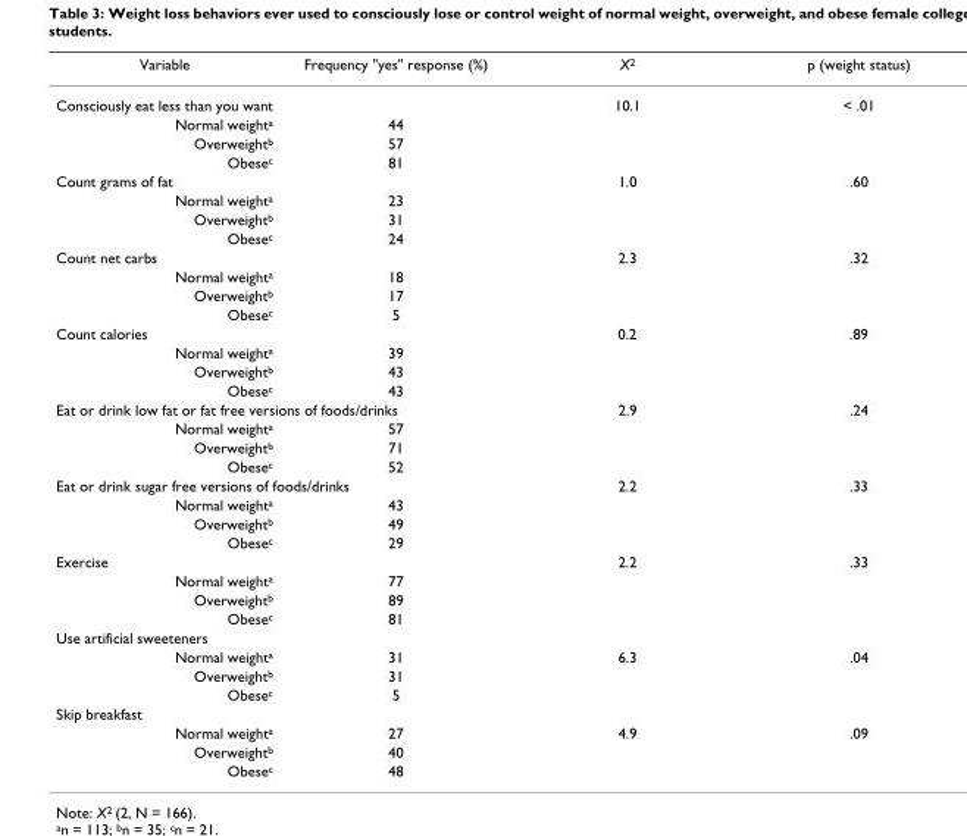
<table><thead><tr><td>Variable</td><td>Frequency &quot;yes&quot; response (%)</td><td>X<sup>2</sup></td><td>p (weight status)</td></tr></thead><tbody><tr><td>Consciously eat less than you want</td><td></td><td>10.1</td><td>&lt; .01</td></tr><tr><td>Normal weight<sup>a</sup></td><td>44</td><td></td><td></td></tr><tr><td>Overweight<sup>b</sup></td><td>57</td><td></td><td></td></tr><tr><td>Obese<sup>c</sup></td><td>81</td><td></td><td></td></tr><tr><td>Count grams of fat</td><td></td><td>1.0</td><td>.60</td></tr><tr><td>Normal weight<sup>a</sup></td><td>23</td><td></td><td></td></tr><tr><td>Overweight<sup>b</sup></td><td>31</td><td></td><td></td></tr><tr><td>Obese<sup>c</sup></td><td>24</td><td></td><td></td></tr><tr><td>Count net carbs</td><td></td><td>2.3</td><td>.32</td></tr><tr><td>Normal weight<sup>a</sup></td><td>18</td><td></td><td></td></tr><tr><td>Overweight<sup>b</sup></td><td>17</td><td></td><td></td></tr><tr><td>Obese<sup>c</sup></td><td>5</td><td></td><td></td></tr><tr><td>Count calories</td><td></td><td>0.2</td><td>.89</td></tr><tr><td>Normal weight<sup>a</sup></td><td>39</td><td></td><td></td></tr><tr><td>Overweight<sup>b</sup></td><td>43</td><td></td><td></td></tr><tr><td>Obese<sup>c</sup></td><td>43</td><td></td><td></td></tr><tr><td colspan="2">Eat or drink low fat or fat free versions of foods/drinks</td><td>2.9</td><td>.24</td></tr><tr><td>Normal weight<sup>a</sup></td><td>57</td><td></td><td></td></tr><tr><td>Overweight<sup>b</sup></td><td>71</td><td></td><td></td></tr><tr><td>Obese<sup>c</sup></td><td>52</td><td></td><td></td></tr><tr><td colspan="2">Eat or drink sugar free versions of foods/drinks</td><td>2.2</td><td>.33</td></tr><tr><td>Normal weight<sup>a</sup></td><td>43</td><td></td><td></td></tr><tr><td>Overweight<sup>b</sup></td><td>49</td><td></td><td></td></tr><tr><td>Obese<sup>c</sup></td><td>29</td><td></td><td></td></tr><tr><td>Exercise</td><td></td><td>2.2</td><td>.33</td></tr><tr><td>Normal weight<sup>a</sup></td><td>77</td><td></td><td></td></tr><tr><td>Overweight<sup>b</sup></td><td>89</td><td></td><td></td></tr><tr><td>Obese<sup>c</sup></td><td>81</td><td></td><td></td></tr><tr><td colspan="4">Use artificial sweeteners</td></tr><tr><td>Normal weight<sup>a</sup></td><td>31</td><td>6.3</td><td>.04</td></tr><tr><td>Overweight<sup>b</sup></td><td>31</td><td></td><td></td></tr><tr><td>Obese<sup>c</sup></td><td>5</td><td></td><td></td></tr><tr><td colspan="4">Skip breakfast</td></tr><tr><td>Normal weight<sup>a</sup></td><td>27</td><td>4.9</td><td>.09</td></tr><tr><td>Overweight<sup>b</sup></td><td>40</td><td></td><td></td></tr><tr><td>Obese<sup>c</sup></td><td>48</td><td></td><td></td></tr></tbody></table>